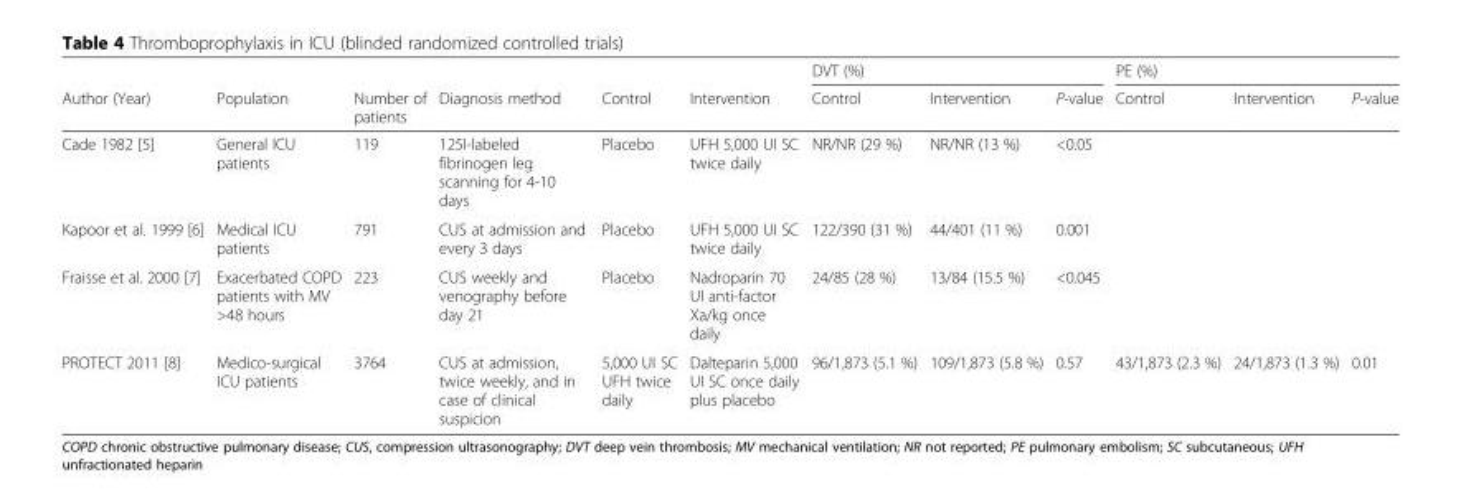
<table><thead><tr><td rowspan="2">Author (Year)</td><td rowspan="2">Population</td><td rowspan="2">Number of patients</td><td rowspan="2">Diagnosis method</td><td rowspan="2">Control</td><td rowspan="2">Intervention</td><td colspan="3">DVT (%)</td><td colspan="3">PE (%)</td></tr><tr><td>Control</td><td>Intervention</td><td>P-value</td><td>Control</td><td>Intervention</td><td>P-value</td></tr></thead><tbody><tr><td>Cade 1982 [5]</td><td>General ICU patients</td><td>119</td><td>125I-labeled fibrinogen leg scanning for 4-10 days</td><td>Placebo</td><td>UFH 5,000 UI SC twice daily</td><td>NR/NR (29 %)</td><td>NR/NR (13 %)</td><td>&lt;0.05</td><td></td><td></td><td></td></tr><tr><td>Kapoor et al. 1999 [6]</td><td>Medical ICU patients</td><td>791</td><td>CUS at admission and every 3 days</td><td>Placebo</td><td>UFH 5,000 UI SC twice daily</td><td>122/390 (31 %)</td><td>44/401 (11 %)</td><td>0.001</td><td></td><td></td><td></td></tr><tr><td>Fraisse et al. 2000 [7]</td><td>Exacerbated COPD patients with MV &gt;48 hours</td><td>223</td><td>CUS weekly and venography before day 21</td><td>Placebo</td><td>Nadroparin 70 UI anti-factor Xa/kg once daily</td><td>24/85 (28 %)</td><td>13/84 (15.5 %)</td><td>&lt;0.045</td><td></td><td></td><td></td></tr><tr><td>PROTECT 2011 [8]</td><td>Medico-surgical ICU patients</td><td>3764</td><td>CUS at admission, twice weekly, and in case of clinical suspicion</td><td>5,000 UI SC UFH twice daily</td><td>Dalteparin 5,000 UI SC once daily plus placebo</td><td>96/1,873 (5.1 %)</td><td>109/1,873 (5.8 %)</td><td>0.57</td><td>43/1,873 (2.3 %)</td><td>24/1,873 (1.3 %)</td><td>0.01</td></tr></tbody></table>